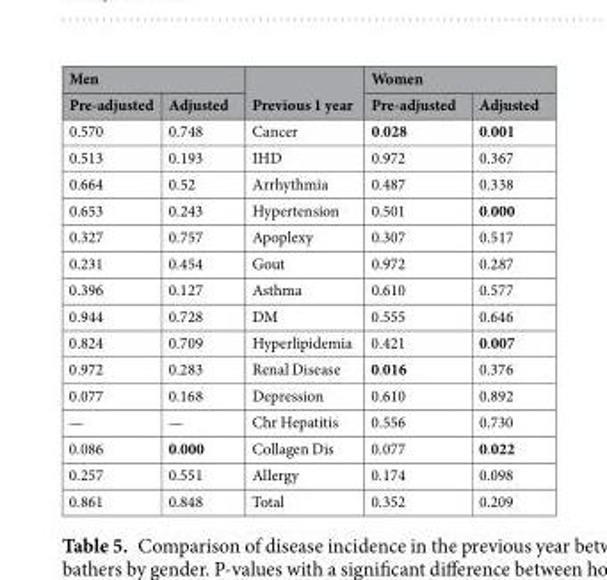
<table><thead><tr><td colspan="2">Men</td><td rowspan="2">Previous 1 year</td><td colspan="2">Women</td></tr><tr><td>Pre-adjusted</td><td>Adjusted</td><td>Pre-adjusted</td><td>Adjusted</td></tr></thead><tbody><tr><td>0.570</td><td>0.748</td><td>Cancer</td><td>0.028</td><td>0.001</td></tr><tr><td>0.513</td><td>0.193</td><td>IHD</td><td>0.972</td><td>0.367</td></tr><tr><td>0.664</td><td>0.52</td><td>Arrhythmia</td><td>0.487</td><td>0.338</td></tr><tr><td>0.653</td><td>0.243</td><td>Hypertension</td><td>0.501</td><td>0.000</td></tr><tr><td>0.327</td><td>0.757</td><td>Apoplexy</td><td>0.307</td><td>0.517</td></tr><tr><td>0.231</td><td>0.454</td><td>Gout</td><td>0.972</td><td>0.287</td></tr><tr><td>0.396</td><td>0.127</td><td>Asthma</td><td>0.610</td><td>0.577</td></tr><tr><td>0.944</td><td>0.728</td><td>DM</td><td>0.555</td><td>0.646</td></tr><tr><td>0.824</td><td>0.709</td><td>Hyperlipidemia</td><td>0.421</td><td>0.007</td></tr><tr><td>0.972</td><td>0.283</td><td>Renal Disease</td><td>0.016</td><td>0.376</td></tr><tr><td>0.077</td><td>0.168</td><td>Depression</td><td>0.610</td><td>0.892</td></tr><tr><td>—</td><td>—</td><td>Chr Hepatitis</td><td>0.556</td><td>0.730</td></tr><tr><td>0.086</td><td>0.000</td><td>Collagen Dis</td><td>0.077</td><td>0.022</td></tr><tr><td>0.257</td><td>0.551</td><td>Allergy</td><td>0.174</td><td>0.098</td></tr><tr><td>0.861</td><td>0.848</td><td>Total</td><td>0.352</td><td>0.209</td></tr></tbody></table>